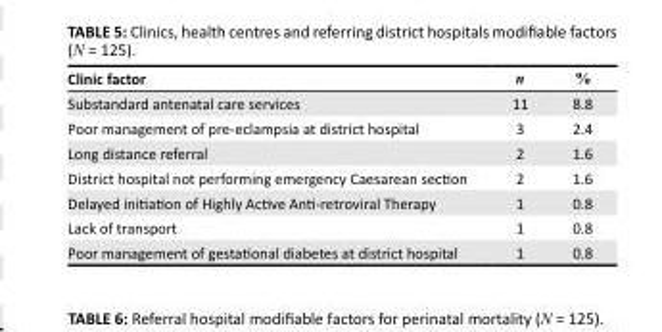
<table><thead><tr><td>Clinic factor</td><td>n</td><td>%</td></tr></thead><tbody><tr><td>Substandard antenatal care services</td><td>11</td><td>8.8</td></tr><tr><td>Poor management of pre-eclampsia at district hospital</td><td>3</td><td>2.4</td></tr><tr><td>Long distance referral</td><td>2</td><td>1.6</td></tr><tr><td>District hospital not performing emergency Caesarean section</td><td>2</td><td>1.6</td></tr><tr><td>Delayed initiation of Highly Active Anti-retroviral Therapy</td><td>1</td><td>0.8</td></tr><tr><td>Lack of transport</td><td>1</td><td>0.8</td></tr><tr><td>Poor management of gestational diabetes at district hospital</td><td>1</td><td>0.8</td></tr></tbody></table>